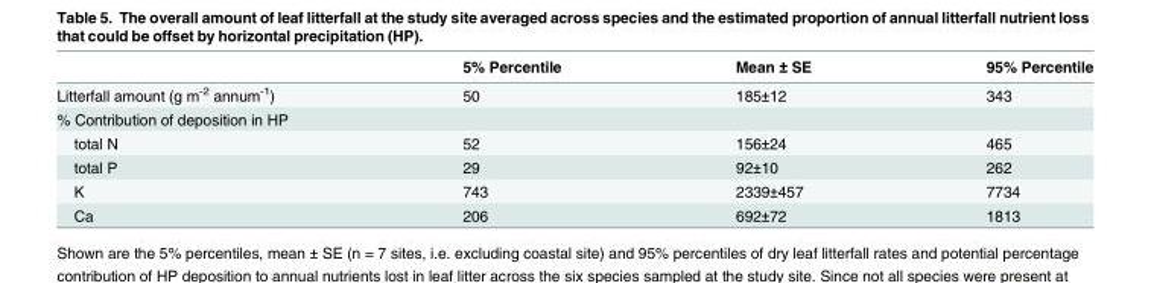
<table><thead><tr><td></td><td>5% Percentile</td><td>Mean ± SE</td><td>95% Percentile</td></tr></thead><tbody><tr><td>Litterfall amount (g m<sup>-2</sup> annum<sup>-1</sup>)</td><td>50</td><td>185±12</td><td>343</td></tr><tr><td colspan="4">% Contribution of deposition in HP</td></tr><tr><td>total N</td><td>52</td><td>156±24</td><td>465</td></tr><tr><td>total P</td><td>29</td><td>92±10</td><td>262</td></tr><tr><td>K</td><td>743</td><td>2339±457</td><td>7734</td></tr><tr><td>Ca</td><td>206</td><td>692±72</td><td>1813</td></tr></tbody></table>